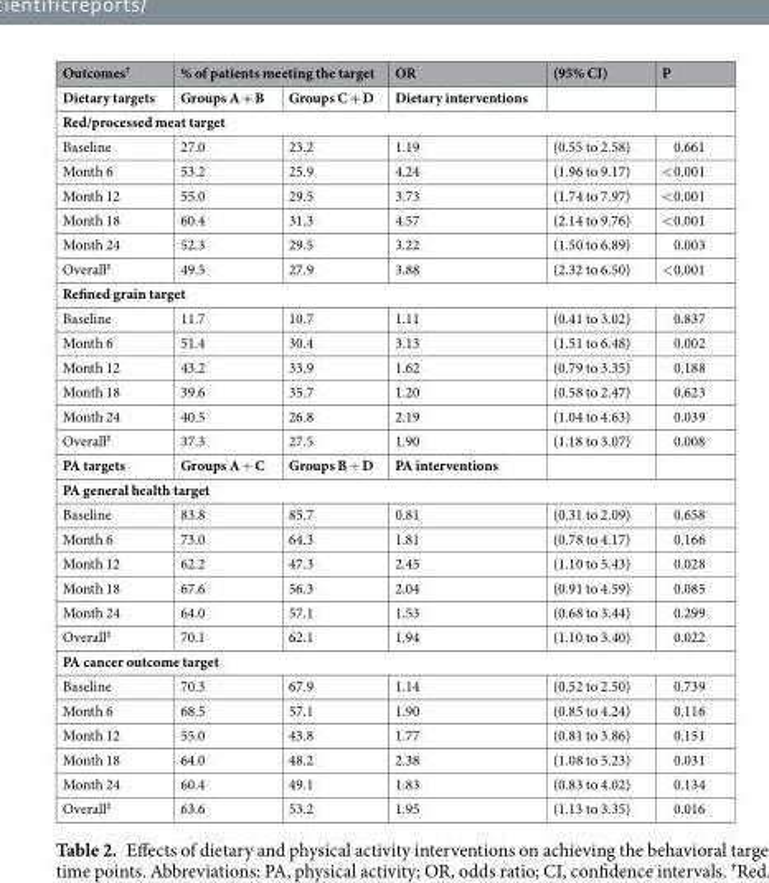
<table><thead><tr><td rowspan="2">Outcomes<sup>†</sup> Dietary targets</td><td colspan="2">% of patients meeting the target</td><td rowspan="2">OR Dietary interventions</td><td rowspan="2">(95% CI)</td><td rowspan="2">P</td></tr><tr><td>Groups A + B</td><td>Groups C + D</td></tr></thead><tbody><tr><td colspan="6">Red/processed meat target</td></tr><tr><td>Baseline</td><td>27.0</td><td>23.2</td><td>1.19</td><td>(0.55 to 2.58)</td><td>0.661</td></tr><tr><td>Month 6</td><td>53.2</td><td>25.9</td><td>4.24</td><td>(1.96 to 9.17)</td><td>&lt;0.001</td></tr><tr><td>Month 12</td><td>55.0</td><td>29.5</td><td>3.73</td><td>(1.74 to 7.97)</td><td>&lt;0.001</td></tr><tr><td>Month 18</td><td>60.4</td><td>31.3</td><td>4.57</td><td>(2.14 to 9.76)</td><td>&lt;0.001</td></tr><tr><td>Month 24</td><td>52.3</td><td>29.5</td><td>3.22</td><td>(1.50 to 6.89)</td><td>0.003</td></tr><tr><td>Overall<sup>‡</sup></td><td>49.5</td><td>27.9</td><td>3.88</td><td>(2.32 to 6.50)</td><td>&lt;0.001</td></tr><tr><td colspan="6">Refined grain target</td></tr><tr><td>Baseline</td><td>11.7</td><td>10.7</td><td>1.11</td><td>(0.41 to 3.02)</td><td>0.837</td></tr><tr><td>Month 6</td><td>51.4</td><td>30.4</td><td>3.13</td><td>(1.51 to 6.48)</td><td>0.002</td></tr><tr><td>Month 12</td><td>43.2</td><td>33.9</td><td>1.62</td><td>(0.79 to 3.35)</td><td>0.188</td></tr><tr><td>Month 18</td><td>39.6</td><td>35.7</td><td>1.20</td><td>(0.58 to 2.47)</td><td>0.623</td></tr><tr><td>Month 24</td><td>40.5</td><td>26.8</td><td>2.19</td><td>(1.04 to 4.63)</td><td>0.039</td></tr><tr><td>Overall<sup>‡</sup></td><td>37.3</td><td>27.5</td><td>1.90</td><td>(1.18 to 3.07)</td><td>0.008</td></tr><tr><td>PA targets</td><td>Groups A + C</td><td>Groups B + D</td><td>PA interventions</td><td></td><td></td></tr><tr><td colspan="6">PA general health target</td></tr><tr><td>Baseline</td><td>83.8</td><td>85.7</td><td>0.81</td><td>(0.31 to 2.09)</td><td>0.658</td></tr><tr><td>Month 6</td><td>73.0</td><td>64.3</td><td>1.81</td><td>(0.78 to 4.17)</td><td>0.166</td></tr><tr><td>Month 12</td><td>62.2</td><td>47.3</td><td>2.45</td><td>(1.10 to 5.43)</td><td>0.028</td></tr><tr><td>Month 18</td><td>67.6</td><td>56.3</td><td>2.04</td><td>(0.91 to 4.59)</td><td>0.085</td></tr><tr><td>Month 24</td><td>64.0</td><td>57.1</td><td>1.53</td><td>(0.68 to 3.44)</td><td>0.299</td></tr><tr><td>Overall<sup>‡</sup></td><td>70.1</td><td>62.1</td><td>1.94</td><td>(1.10 to 3.40)</td><td>0.022</td></tr><tr><td colspan="6">PA cancer outcome target</td></tr><tr><td>Baseline</td><td>70.3</td><td>67.9</td><td>1.14</td><td>(0.52 to 2.50)</td><td>0.739</td></tr><tr><td>Month 6</td><td>68.5</td><td>57.1</td><td>1.90</td><td>(0.85 to 4.24)</td><td>0.116</td></tr><tr><td>Month 12</td><td>55.0</td><td>43.8</td><td>1.77</td><td>(0.81 to 3.86)</td><td>0.151</td></tr><tr><td>Month 18</td><td>64.0</td><td>48.2</td><td>2.38</td><td>(1.08 to 5.23)</td><td>0.031</td></tr><tr><td>Month 24</td><td>60.4</td><td>49.1</td><td>1.83</td><td>(0.83 to 4.02)</td><td>0.134</td></tr><tr><td>Overall<sup>‡</sup></td><td>63.6</td><td>53.2</td><td>1.95</td><td>(1.13 to 3.35)</td><td>0.016</td></tr></tbody></table>